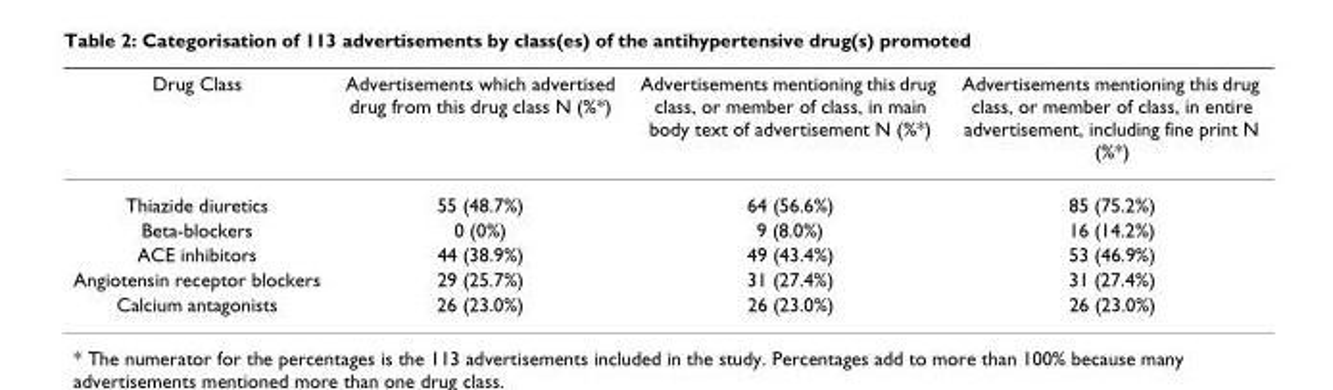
<table><thead><tr><td>Drug Class</td><td>Advertisements which advertised drug from this drug class N (%*)</td><td>Advertisements mentioning this drug class, or member of class, in main body text of advertisement N (%*)</td><td>Advertisements mentioning this drug class, or member of class, in entire advertisement, including fine print N (%*)</td></tr></thead><tbody><tr><td>Thiazide diuretics</td><td>55 (48.7%)</td><td>64 (56.6%)</td><td>85 (75.2%)</td></tr><tr><td>Beta-blockers</td><td>0 (0%)</td><td>9 (8.0%)</td><td>16 (14.2%)</td></tr><tr><td>ACE inhibitors</td><td>44 (38.9%)</td><td>49 (43.4%)</td><td>53 (46.9%)</td></tr><tr><td>Angiotensin receptor blockers</td><td>29 (25.7%)</td><td>31 (27.4%)</td><td>31 (27.4%)</td></tr><tr><td>Calcium antagonists</td><td>26 (23.0%)</td><td>26 (23.0%)</td><td>26 (23.0%)</td></tr></tbody></table>